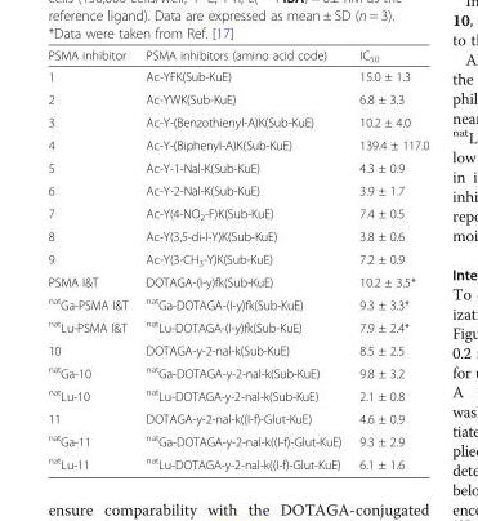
<table><thead><tr><td>PSMA inhibitor</td><td>PSMA inhibitors (amino acid code)</td><td>IC<sub>50</sub></td></tr></thead><tbody><tr><td>1</td><td>Ac-YFK(Sub-KuE)</td><td>15.0 ± 1.3</td></tr><tr><td>2</td><td>Ac-YWK(Sub-KuE)</td><td>6.8 ± 3.3</td></tr><tr><td>3</td><td>Ac-Y-(Benzothienyl-A)K(Sub-KuE)</td><td>10.2 ± 4.0</td></tr><tr><td>4</td><td>Ac-Y-(Biphenyl-A)K(Sub-KuE)</td><td>139.4 ± 117.0</td></tr><tr><td>5</td><td>Ac-Y-1-Nal-K(Sub-KuE)</td><td>4.3 ± 0.9</td></tr><tr><td>6</td><td>Ac-Y-2-Nal-K(Sub-KuE)</td><td>3.9 ± 1.7</td></tr><tr><td>7</td><td>Ac-Y(4-NO<sub>2</sub>-F)K(Sub-KuE)</td><td>7.4 ± 0.5</td></tr><tr><td>8</td><td>Ac-Y(3,5-di-I-Y)K(Sub-KuE)</td><td>3.8 ± 0.6</td></tr><tr><td>9</td><td>Ac-Y(3-CH<sub>3</sub>-Y)K(Sub-KuE)</td><td>7.2 ± 0.9</td></tr><tr><td>PSMA I&amp;T</td><td>DOTAGA-(I-y)fk(Sub-KuE)</td><td>10.2 ± 3.5*</td></tr><tr><td><sup>nat</sup>Ga-PSMA I&amp;T</td><td><sup>nat</sup>Ga-DOTAGA-(I-y)fk(Sub-KuE)</td><td>9.3 ± 3.3*</td></tr><tr><td><sup>nat</sup>Lu-PSMA I&amp;T</td><td><sup>nat</sup>Lu-DOTAGA-(I-y)fk(Sub-KuE)</td><td>7.9 ± 2.4*</td></tr><tr><td>10</td><td>DOTAGA-y-2-nal-k(Sub-KuE)</td><td>8.5 ± 2.5</td></tr><tr><td><sup>nat</sup>Ga-10</td><td><sup>nat</sup>Ga-DOTAGA-y-2-nal-k(Sub-KuE)</td><td>9.8 ± 3.2</td></tr><tr><td><sup>nat</sup>Lu-10</td><td><sup>nat</sup>Lu-DOTAGA-y-2-nal-k(Sub-KuE)</td><td>2.1 ± 0.8</td></tr><tr><td>11</td><td>DOTAGA-y-2-nal-k((I-f)-Glut-KuE)</td><td>4.6 ± 0.9</td></tr><tr><td><sup>nat</sup>Ga-11</td><td><sup>nat</sup>Ga-DOTAGA-y-2-nal-k((I-f)-Glut-KuE)</td><td>9.3 ± 2.9</td></tr><tr><td><sup>nat</sup>Lu-11</td><td><sup>nat</sup>Lu-DOTAGA-y-2-nal-k((I-f)-Glut-KuE)</td><td>6.1 ± 1.6</td></tr></tbody></table>